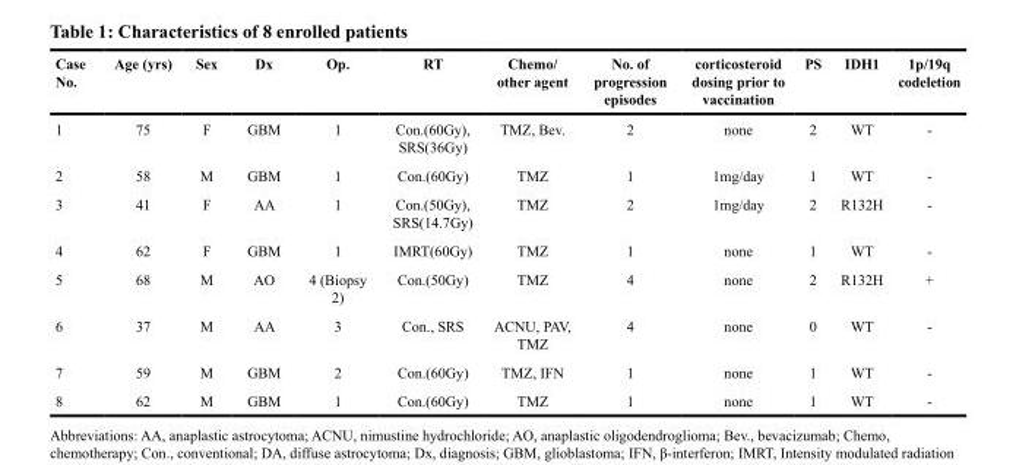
<table><thead><tr><td>Case No.</td><td>Age (yrs)</td><td>Sex</td><td>Dx</td><td>Op.</td><td>RT</td><td>Chemo/ other agent</td><td>No. of progression episodes</td><td>corticosteroid dosing prior to vaccination</td><td>PS</td><td>IDH1</td><td>1p/19q codeletion</td></tr></thead><tbody><tr><td>1</td><td>75</td><td>F</td><td>GBM</td><td>1</td><td>Con.(60Gy), SRS(36Gy)</td><td>TMZ, Bev.</td><td>2</td><td>none</td><td>2</td><td>WT</td><td>-</td></tr><tr><td>2</td><td>58</td><td>M</td><td>GBM</td><td>1</td><td>Con.(60Gy)</td><td>TMZ</td><td>1</td><td>1mg/day</td><td>1</td><td>WT</td><td>-</td></tr><tr><td>3</td><td>41</td><td>F</td><td>AA</td><td>1</td><td>Con.(50Gy), SRS(14.7Gy)</td><td>TMZ</td><td>2</td><td>1mg/day</td><td>2</td><td>R132H</td><td>-</td></tr><tr><td>4</td><td>62</td><td>F</td><td>GBM</td><td>1</td><td>IMRT(60Gy)</td><td>TMZ</td><td>1</td><td>none</td><td>1</td><td>WT</td><td>-</td></tr><tr><td>5</td><td>68</td><td>M</td><td>AO</td><td>4 (Biopsy 2)</td><td>Con.(50Gy)</td><td>TMZ</td><td>4</td><td>none</td><td>2</td><td>R132H</td><td>+</td></tr><tr><td>6</td><td>37</td><td>M</td><td>AA</td><td>3</td><td>Con., SRS</td><td>ACNU, PAV, TMZ</td><td>4</td><td>none</td><td>0</td><td>WT</td><td>-</td></tr><tr><td>7</td><td>59</td><td>M</td><td>GBM</td><td>2</td><td>Con.(60Gy)</td><td>TMZ, IFN</td><td>1</td><td>none</td><td>1</td><td>WT</td><td>-</td></tr><tr><td>8</td><td>62</td><td>M</td><td>GBM</td><td>1</td><td>Con.(60Gy)</td><td>TMZ</td><td>1</td><td>none</td><td>1</td><td>WT</td><td>-</td></tr></tbody></table>